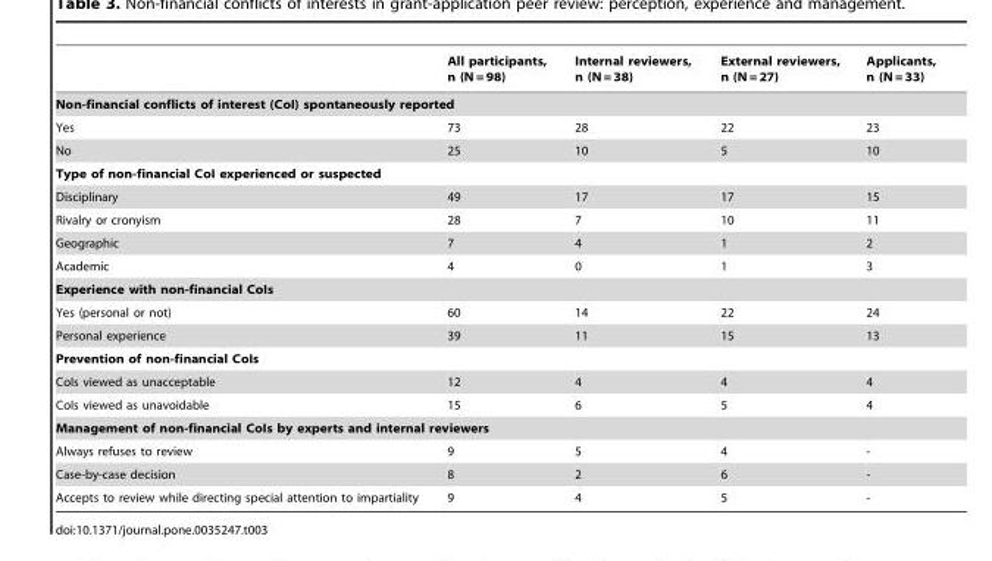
<table><thead><tr><td></td><td>All participants, n (N = 98)</td><td>Internal reviewers, n (N = 38)</td><td>External reviewers, n (N = 27)</td><td>Applicants, n (N = 33)</td></tr></thead><tbody><tr><td colspan="5">Non-financial conflicts of interest (CoI) spontaneously reported</td></tr><tr><td>Yes</td><td>73</td><td>28</td><td>22</td><td>23</td></tr><tr><td>No</td><td>25</td><td>10</td><td>5</td><td>10</td></tr><tr><td colspan="5">Type of non-financial CoI experienced or suspected</td></tr><tr><td>Disciplinary</td><td>49</td><td>17</td><td>17</td><td>15</td></tr><tr><td>Rivalry or cronyism</td><td>28</td><td>7</td><td>10</td><td>11</td></tr><tr><td>Geographic</td><td>7</td><td>4</td><td>1</td><td>2</td></tr><tr><td>Academic</td><td>4</td><td>0</td><td>1</td><td>3</td></tr><tr><td colspan="5">Experience with non-financial CoIs</td></tr><tr><td>Yes (personal or not)</td><td>60</td><td>14</td><td>22</td><td>24</td></tr><tr><td>Personal experience</td><td>39</td><td>11</td><td>15</td><td>13</td></tr><tr><td colspan="5">Prevention of non-financial CoIs</td></tr><tr><td>CoIs viewed as unacceptable</td><td>12</td><td>4</td><td>4</td><td>4</td></tr><tr><td>CoIs viewed as unavoidable</td><td>15</td><td>6</td><td>5</td><td>4</td></tr><tr><td colspan="5">Management of non-financial CoIs by experts and internal reviewers</td></tr><tr><td>Always refuses to review</td><td>9</td><td>5</td><td>4</td><td>-</td></tr><tr><td>Case-by-case decision</td><td>8</td><td>2</td><td>6</td><td>-</td></tr><tr><td>Accepts to review while directing special attention to impartiality</td><td>9</td><td>4</td><td>5</td><td>-</td></tr></tbody></table>